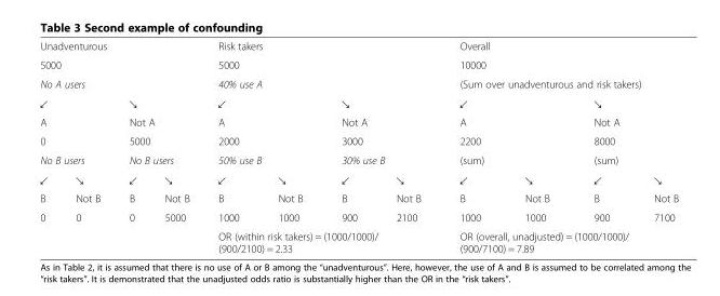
<table><tbody><tr><td colspan="4">Unadventurous</td><td colspan="4">Risk takers</td><td colspan="4">Overall</td></tr><tr><td colspan="4">5000</td><td colspan="4">5000</td><td colspan="4">10000</td></tr><tr><td colspan="4">No A users</td><td colspan="4">40% use A</td><td colspan="4">(Sum over unadventurous and risk takers)</td></tr><tr><td colspan="2">↙</td><td colspan="2">↘</td><td colspan="2">↙</td><td colspan="2">↘</td><td colspan="2">↙</td><td colspan="2">↘</td></tr><tr><td colspan="2">A</td><td colspan="2">Not A</td><td colspan="2">A</td><td colspan="2">Not A</td><td colspan="2">A</td><td colspan="2">Not A</td></tr><tr><td colspan="2">0</td><td colspan="2">5000</td><td colspan="2">2000</td><td colspan="2">3000</td><td colspan="2">2200</td><td colspan="2">8000</td></tr><tr><td colspan="2">No B users</td><td colspan="2">No B users</td><td colspan="2">50% use B</td><td colspan="2">30% use B</td><td colspan="2">(sum)</td><td colspan="2">(sum)</td></tr><tr><td>↙</td><td>↘</td><td>↙</td><td>↘</td><td>↙</td><td>↘</td><td>↙</td><td>↘</td><td>↙</td><td>↘</td><td>↙</td><td>↘</td></tr><tr><td>B</td><td>Not B</td><td>B</td><td>Not B</td><td>B</td><td>Not B</td><td>B</td><td>Not B</td><td>B</td><td>Not B</td><td>B</td><td>Not B</td></tr><tr><td>0</td><td>0</td><td>0</td><td>5000</td><td>1000</td><td>1000</td><td>900</td><td>2100</td><td>1000</td><td>1000</td><td>900</td><td>7100</td></tr><tr><td colspan="4"></td><td colspan="4">OR (within risk takers) = (1000/1000)/ (900/2100) = 2.33</td><td colspan="4">OR (overall, unadjusted) = (1000/1000)/ (900/7100) = 7.89</td></tr></tbody></table>